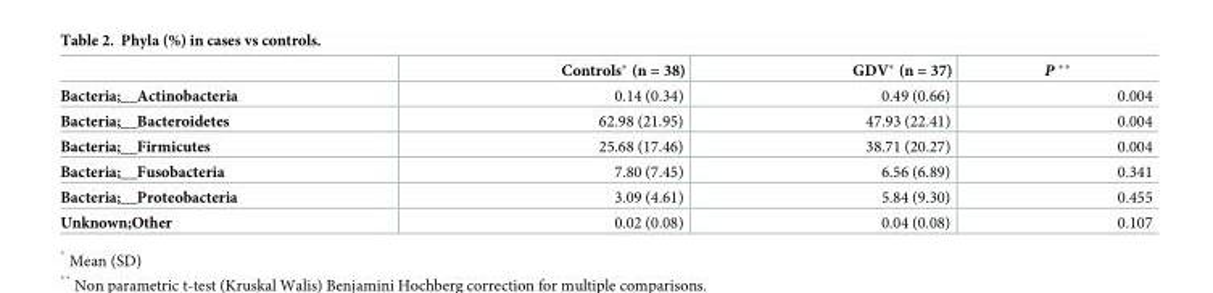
<table><thead><tr><td></td><td>Controls* (n = 38)</td><td>GDV* (n = 37)</td><td>P **</td></tr></thead><tbody><tr><td>Bacteria;__Actinobacteria</td><td>0.14 (0.34)</td><td>0.49 (0.66)</td><td>0.004</td></tr><tr><td>Bacteria;__Bacteroidetes</td><td>62.98 (21.95)</td><td>47.93 (22.41)</td><td>0.004</td></tr><tr><td>Bacteria;__Firmicutes</td><td>25.68 (17.46)</td><td>38.71 (20.27)</td><td>0.004</td></tr><tr><td>Bacteria;__Fusobacteria</td><td>7.80 (7.45)</td><td>6.56 (6.89)</td><td>0.341</td></tr><tr><td>Bacteria;__Proteobacteria</td><td>3.09 (4.61)</td><td>5.84 (9.30)</td><td>0.455</td></tr><tr><td>Unknown;Other</td><td>0.02 (0.08)</td><td>0.04 (0.08)</td><td>0.107</td></tr></tbody></table>